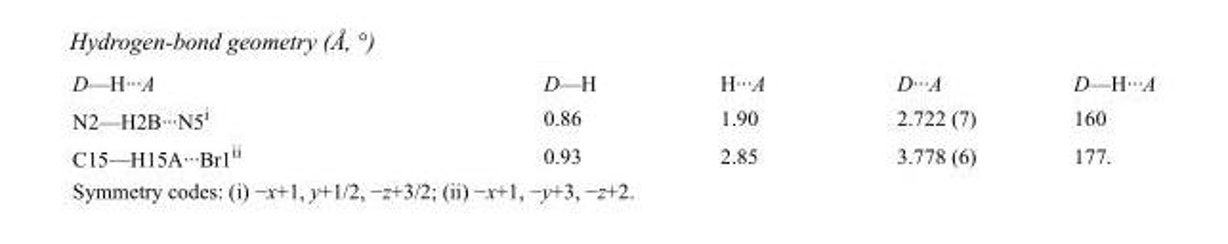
<table><tbody><tr><td>D—H···A</td><td>D—H</td><td>H···A</td><td>D···A</td><td>D—H···A</td></tr><tr><td>N2—H2B···N5<sup>i</sup></td><td>0.86</td><td>1.90</td><td>2.722 (7)</td><td>160</td></tr><tr><td>C15—H15A···Br1<sup>ii</sup></td><td>0.93</td><td>2.85</td><td>3.778 (6)</td><td>177.</td></tr></tbody></table>